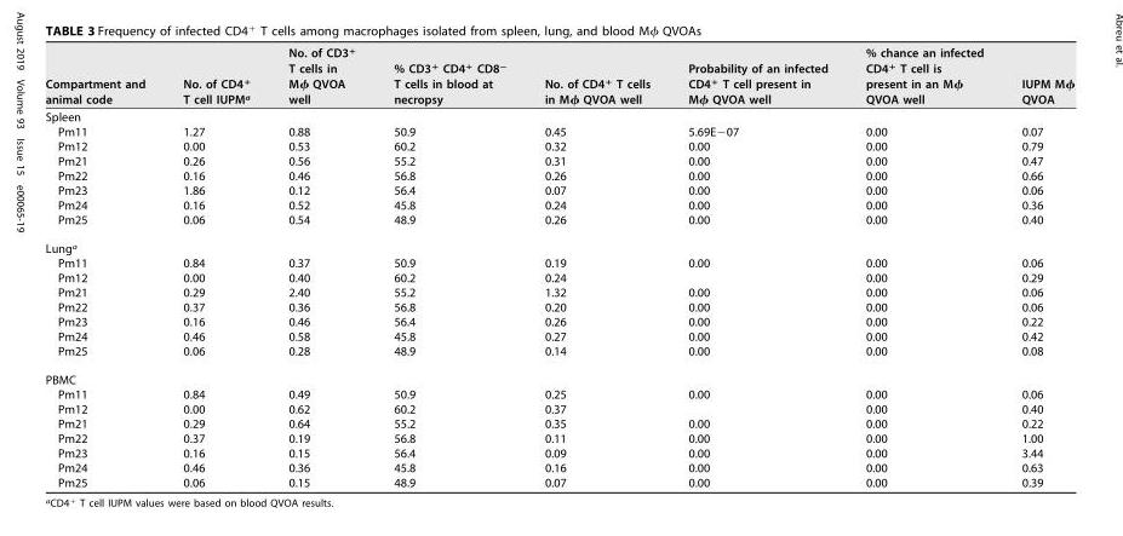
<table><thead><tr><td>Compartment and animal code</td><td>No. of CD4<sup>+</sup> T cell IUPM<sup>a</sup></td><td>No. of CD3<sup>+</sup> T cells in Mϕ QVOA well</td><td>% CD3<sup>+</sup> CD4<sup>+</sup> CD8<sup>−</sup> T cells in blood at necropsy</td><td>No. of CD4<sup>+</sup> T cells in Mϕ QVOA well</td><td>Probability of an infected CD4<sup>+</sup> T cell present in Mϕ QVOA well</td><td>% chance an infected CD4<sup>+</sup> T cell is present in an Mϕ QVOA well</td><td>IUPM Mϕ QVOA</td></tr></thead><tbody><tr><td colspan="8">Spleen</td></tr><tr><td>Pm11</td><td>1.27</td><td>0.88</td><td>50.9</td><td>0.45</td><td>5.69E−07</td><td>0.00</td><td>0.07</td></tr><tr><td>Pm12</td><td>0.00</td><td>0.53</td><td>60.2</td><td>0.32</td><td>0.00</td><td>0.00</td><td>0.79</td></tr><tr><td>Pm21</td><td>0.26</td><td>0.56</td><td>55.2</td><td>0.31</td><td>0.00</td><td>0.00</td><td>0.47</td></tr><tr><td>Pm22</td><td>0.16</td><td>0.46</td><td>56.8</td><td>0.26</td><td>0.00</td><td>0.00</td><td>0.66</td></tr><tr><td>Pm23</td><td>1.86</td><td>0.12</td><td>56.4</td><td>0.07</td><td>0.00</td><td>0.00</td><td>0.06</td></tr><tr><td>Pm24</td><td>0.16</td><td>0.52</td><td>45.8</td><td>0.24</td><td>0.00</td><td>0.00</td><td>0.36</td></tr><tr><td>Pm25</td><td>0.06</td><td>0.54</td><td>48.9</td><td>0.26</td><td>0.00</td><td>0.00</td><td>0.40</td></tr><tr><td colspan="8">Lung<sup>a</sup></td></tr><tr><td>Pm11</td><td>0.84</td><td>0.37</td><td>50.9</td><td>0.19</td><td>0.00</td><td>0.00</td><td>0.06</td></tr><tr><td>Pm12</td><td>0.00</td><td>0.40</td><td>60.2</td><td>0.24</td><td></td><td>0.00</td><td>0.29</td></tr><tr><td>Pm21</td><td>0.29</td><td>2.40</td><td>55.2</td><td>1.32</td><td>0.00</td><td>0.00</td><td>0.06</td></tr><tr><td>Pm22</td><td>0.37</td><td>0.36</td><td>56.8</td><td>0.20</td><td>0.00</td><td>0.00</td><td>0.06</td></tr><tr><td>Pm23</td><td>0.16</td><td>0.46</td><td>56.4</td><td>0.26</td><td>0.00</td><td>0.00</td><td>0.22</td></tr><tr><td>Pm24</td><td>0.46</td><td>0.58</td><td>45.8</td><td>0.27</td><td>0.00</td><td>0.00</td><td>0.42</td></tr><tr><td>Pm25</td><td>0.06</td><td>0.28</td><td>48.9</td><td>0.14</td><td>0.00</td><td>0.00</td><td>0.08</td></tr><tr><td colspan="8">PBMC</td></tr><tr><td>Pm11</td><td>0.84</td><td>0.49</td><td>50.9</td><td>0.25</td><td>0.00</td><td>0.00</td><td>0.06</td></tr><tr><td>Pm12</td><td>0.00</td><td>0.62</td><td>60.2</td><td>0.37</td><td></td><td>0.00</td><td>0.40</td></tr><tr><td>Pm21</td><td>0.29</td><td>0.64</td><td>55.2</td><td>0.35</td><td>0.00</td><td>0.00</td><td>0.22</td></tr><tr><td>Pm22</td><td>0.37</td><td>0.19</td><td>56.8</td><td>0.11</td><td>0.00</td><td>0.00</td><td>1.00</td></tr><tr><td>Pm23</td><td>0.16</td><td>0.15</td><td>56.4</td><td>0.09</td><td>0.00</td><td>0.00</td><td>3.44</td></tr><tr><td>Pm24</td><td>0.46</td><td>0.36</td><td>45.8</td><td>0.16</td><td>0.00</td><td>0.00</td><td>0.63</td></tr><tr><td>Pm25</td><td>0.06</td><td>0.15</td><td>48.9</td><td>0.07</td><td>0.00</td><td>0.00</td><td>0.39</td></tr></tbody></table>